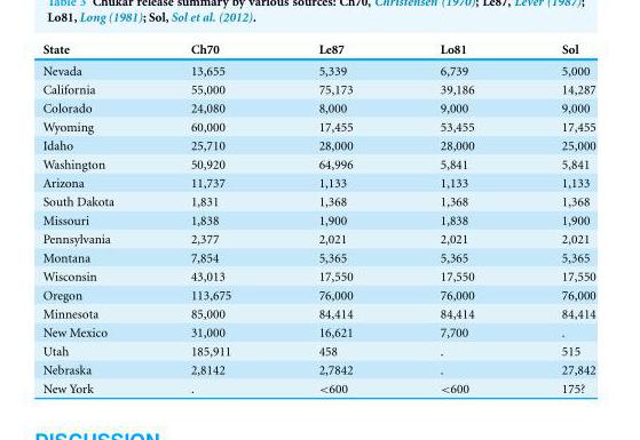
<table><thead><tr><td>State</td><td>Ch70</td><td>Le87</td><td>Lo81</td><td>Sol</td></tr></thead><tbody><tr><td>Nevada</td><td>13,655</td><td>5,339</td><td>6,739</td><td>5,000</td></tr><tr><td>California</td><td>55,000</td><td>75,173</td><td>39,186</td><td>14,287</td></tr><tr><td>Colorado</td><td>24,080</td><td>8,000</td><td>9,000</td><td>9,000</td></tr><tr><td>Wyoming</td><td>60,000</td><td>17,455</td><td>53,455</td><td>17,455</td></tr><tr><td>Idaho</td><td>25,710</td><td>28,000</td><td>28,000</td><td>25,000</td></tr><tr><td>Washington</td><td>50,920</td><td>64,996</td><td>5,841</td><td>5,841</td></tr><tr><td>Arizona</td><td>11,737</td><td>1,133</td><td>1,133</td><td>1,133</td></tr><tr><td>South Dakota</td><td>1,831</td><td>1,368</td><td>1,368</td><td>1,368</td></tr><tr><td>Missouri</td><td>1,838</td><td>1,900</td><td>1,838</td><td>1,900</td></tr><tr><td>Pennsylvania</td><td>2,377</td><td>2,021</td><td>2,021</td><td>2,021</td></tr><tr><td>Montana</td><td>7,854</td><td>5,365</td><td>5,365</td><td>5,365</td></tr><tr><td>Wisconsin</td><td>43,013</td><td>17,550</td><td>17,550</td><td>17,550</td></tr><tr><td>Oregon</td><td>113,675</td><td>76,000</td><td>76,000</td><td>76,000</td></tr><tr><td>Minnesota</td><td>85,000</td><td>84,414</td><td>84,414</td><td>84,414</td></tr><tr><td>New Mexico</td><td>31,000</td><td>16,621</td><td>7,700</td><td>.</td></tr><tr><td>Utah</td><td>185,911</td><td>458</td><td>.</td><td>515</td></tr><tr><td>Nebraska</td><td>2,8142</td><td>2,7842</td><td>.</td><td>27,842</td></tr><tr><td>New York</td><td>.</td><td>&lt;600</td><td>&lt;600</td><td>175?</td></tr></tbody></table>